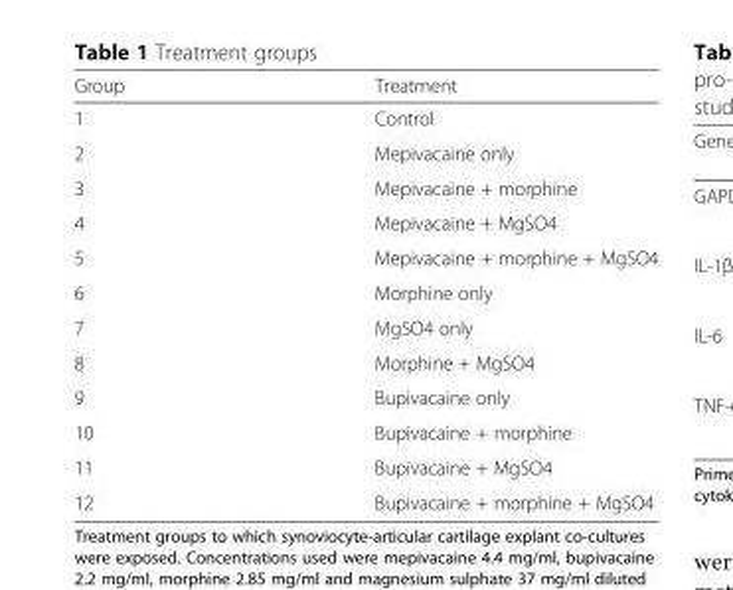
<table><thead><tr><td>Group</td><td>Treatment</td></tr></thead><tbody><tr><td>1</td><td>Control</td></tr><tr><td>2</td><td>Mepivacaine only</td></tr><tr><td>3</td><td>Mepivacaine + morphine</td></tr><tr><td>4</td><td>Mepivacaine + MgSO4</td></tr><tr><td>5</td><td>Mepivacaine + morphine + MgSO4</td></tr><tr><td>6</td><td>Morphine only</td></tr><tr><td>7</td><td>MgSO4 only</td></tr><tr><td>8</td><td>Morphine + MgSO4</td></tr><tr><td>9</td><td>Bupivacaine only</td></tr><tr><td>10</td><td>Bupivacaine + morphine</td></tr><tr><td>11</td><td>Bupivacaine + MgSO4</td></tr><tr><td>12</td><td>Bupivacaine + morphine + MgSO4</td></tr></tbody></table>